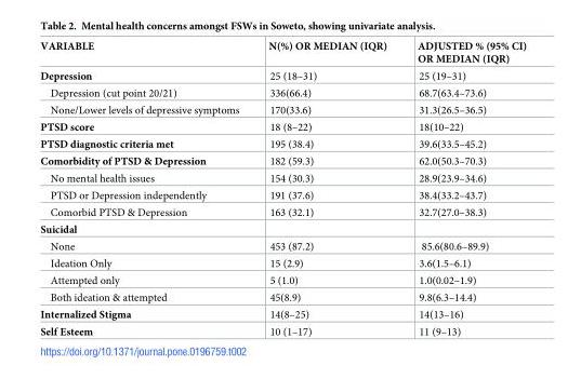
<table><thead><tr><td>VARIABLE</td><td>N(%) OR MEDIAN (IQR)</td><td>ADJUSTED % (95% CI) OR MEDIAN (IQR)</td></tr></thead><tbody><tr><td>Depression</td><td>25 (18–31)</td><td>25 (19–31)</td></tr><tr><td>Depression (cut point 20/21)</td><td>336(66.4)</td><td>68.7(63.4–73.6)</td></tr><tr><td>None/Lower levels of depressive symptoms</td><td>170(33.6)</td><td>31.3(26.5–36.5)</td></tr><tr><td>PTSD score</td><td>18 (8–22)</td><td>18(10–22)</td></tr><tr><td>PTSD diagnostic criteria met</td><td>195 (38.4)</td><td>39.6(33.5–45.2)</td></tr><tr><td>Comorbidity of PTSD &amp; Depression</td><td>182 (59.3)</td><td>62.0(50.3–70.3)</td></tr><tr><td>No mental health issues</td><td>154 (30.3)</td><td>28.9(23.9–34.6)</td></tr><tr><td>PTSD or Depression independently</td><td>191 (37.6)</td><td>38.4(33.2–43.7)</td></tr><tr><td>Comorbid PTSD &amp; Depression</td><td>163 (32.1)</td><td>32.7(27.0–38.3)</td></tr><tr><td colspan="3">Suicidal</td></tr><tr><td>None</td><td>453 (87.2)</td><td>85.6(80.6–89.9)</td></tr><tr><td>Ideation Only</td><td>15 (2.9)</td><td>3.6(1.5–6.1)</td></tr><tr><td>Attempted only</td><td>5 (1.0)</td><td>1.0(0.02–1.9)</td></tr><tr><td>Both ideation &amp; attempted</td><td>45(8.9)</td><td>9.8(6.3–14.4)</td></tr><tr><td>Internalized Stigma</td><td>14(8–25)</td><td>14(13–16)</td></tr><tr><td>Self Esteem</td><td>10 (1–17)</td><td>11 (9–13)</td></tr></tbody></table>